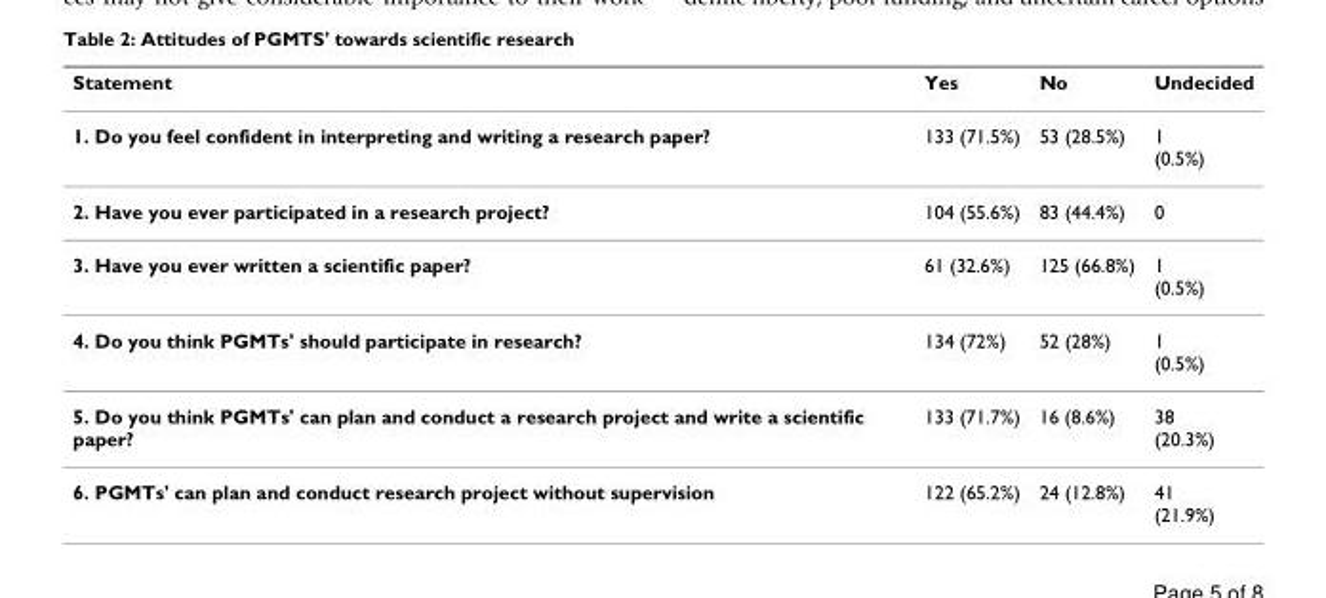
<table><thead><tr><td>Statement</td><td>Yes</td><td>No</td><td>Undecided</td></tr></thead><tbody><tr><td>1. Do you feel confident in interpreting and writing a research paper?</td><td>133 (71.5%)</td><td>53 (28.5%)</td><td>1 (0.5%)</td></tr><tr><td>2. Have you ever participated in a research project?</td><td>104 (55.6%)</td><td>83 (44.4%)</td><td>0</td></tr><tr><td>3. Have you ever written a scientific paper?</td><td>61 (32.6%)</td><td>125 (66.8%)</td><td>1 (0.5%)</td></tr><tr><td>4. Do you think PGMTs&#x27; should participate in research?</td><td>134 (72%)</td><td>52 (28%)</td><td>1 (0.5%)</td></tr><tr><td>5. Do you think PGMTs&#x27; can plan and conduct a research project and write a scientific paper?</td><td>133 (71.7%)</td><td>16 (8.6%)</td><td>38 (20.3%)</td></tr><tr><td>6. PGMTs&#x27; can plan and conduct research project without supervision</td><td>122 (65.2%)</td><td>24 (12.8%)</td><td>41 (21.9%)</td></tr></tbody></table>